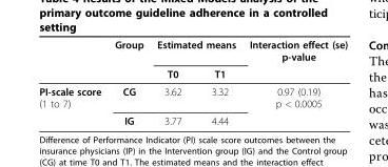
<table><thead><tr><td rowspan="2"></td><td rowspan="2">Group</td><td colspan="2">Estimated means</td><td rowspan="2">Interaction effect (se) p-value</td></tr><tr><td>T0</td><td>T1</td></tr></thead><tbody><tr><td rowspan="2">PI-scale score (1 to 7)</td><td>CG</td><td>3.62</td><td>3.32</td><td>0.97 (0.19) p &lt; 0.0005</td></tr><tr><td>IG</td><td>3.77</td><td>4.44</td><td></td></tr></tbody></table>